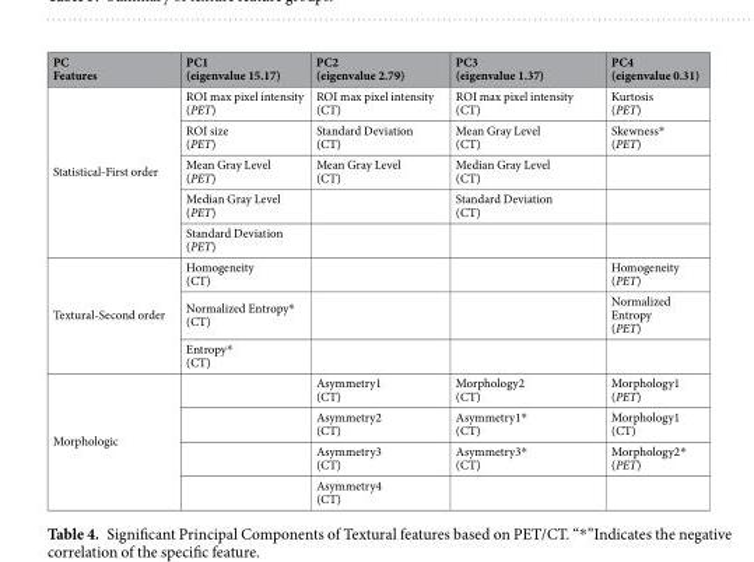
<table><thead><tr><td>PC Features</td><td>PC1 (eigenvalue 15.17)</td><td>PC2 (eigenvalue 2.79)</td><td>PC3 (eigenvalue 1.37)</td><td>PC4 (eigenvalue 0.31)</td></tr></thead><tbody><tr><td rowspan="5">Statistical-First order</td><td>ROI max pixel intensity (PET)</td><td>ROI max pixel intensity (CT)</td><td>ROI max pixel intensity (CT)</td><td>Kurtosis (PET)</td></tr><tr><td>ROI size (PET)</td><td>Standard Deviation (CT)</td><td>Mean Gray Level (CT)</td><td>Skewness* (PET)</td></tr><tr><td>Mean Gray Level (PET)</td><td>Mean Gray Level (CT)</td><td>Median Gray Level (CT)</td><td></td></tr><tr><td>Median Gray Level (PET)</td><td></td><td>Standard Deviation (CT)</td><td></td></tr><tr><td>Standard Deviation (PET)</td><td></td><td></td><td></td></tr><tr><td rowspan="3">Textural-Second order</td><td>Homogeneity (CT)</td><td></td><td></td><td>Homogeneity (PET)</td></tr><tr><td>Normalized Entropy* (CT)</td><td></td><td></td><td>Normalized Entropy (PET)</td></tr><tr><td>Entropy* (CT)</td><td></td><td></td><td></td></tr><tr><td rowspan="4">Morphologic</td><td></td><td>Asymmetry1 (CT)</td><td>Morphology2 (CT)</td><td>Morphology1 (PET)</td></tr><tr><td></td><td>Asymmetry2 (CT)</td><td>Asymmetry1* (CT)</td><td>Morphology1 (CT)</td></tr><tr><td></td><td>Asymmetry3 (CT)</td><td>Asymmetry3* (CT)</td><td>Morphology2* (PET)</td></tr><tr><td></td><td>Asymmetry4 (CT)</td><td></td><td></td></tr></tbody></table>